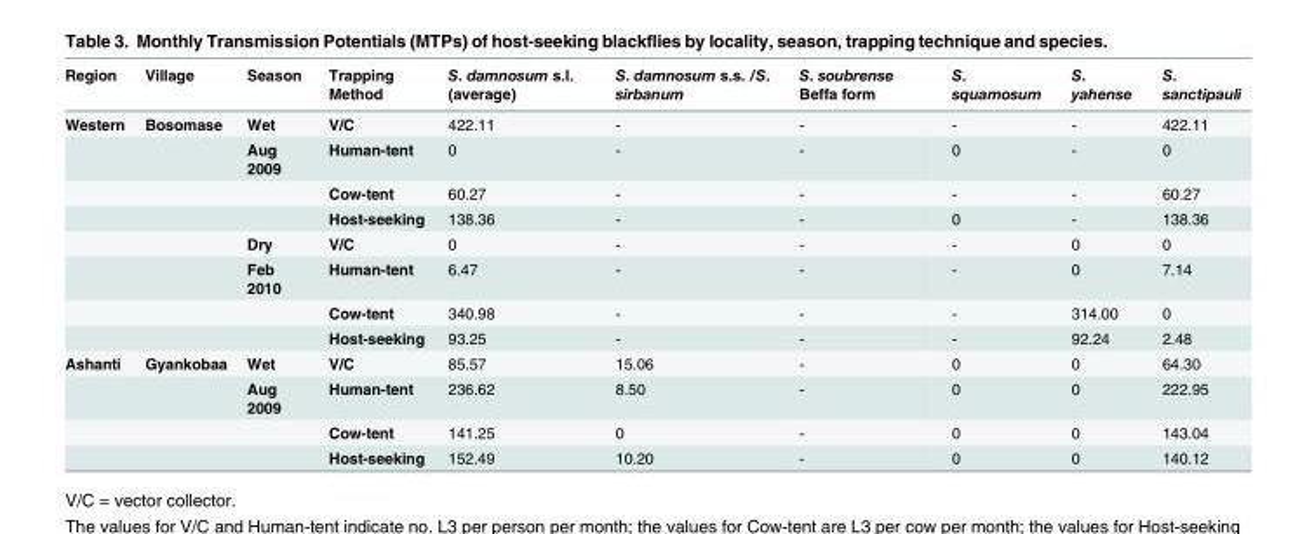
<table><thead><tr><td>Region</td><td>Village</td><td>Season</td><td>Trapping Method</td><td>S. damnosum s.l. (average)</td><td>S. damnosum s.s. /S. sirbanum</td><td>S. soubrense Beffa form</td><td>S. squamosum</td><td>S. yahense</td><td>S. sanctipauli</td></tr></thead><tbody><tr><td rowspan="8">Western</td><td>Bosomase</td><td>Wet</td><td>V/C</td><td>422.11</td><td>-</td><td>-</td><td>-</td><td>-</td><td>422.11</td></tr><tr><td></td><td>Aug 2009</td><td>Human-tent</td><td>0</td><td>-</td><td>-</td><td>0</td><td>-</td><td>0</td></tr><tr><td></td><td></td><td>Cow-tent</td><td>60.27</td><td>-</td><td>-</td><td>-</td><td>-</td><td>60.27</td></tr><tr><td></td><td></td><td>Host-seeking</td><td>138.36</td><td>-</td><td>-</td><td>0</td><td>-</td><td>138.36</td></tr><tr><td></td><td>Dry</td><td>V/C</td><td>0</td><td>-</td><td>-</td><td>-</td><td>0</td><td>0</td></tr><tr><td></td><td>Feb 2010</td><td>Human-tent</td><td>6.47</td><td>-</td><td>-</td><td>-</td><td>0</td><td>7.14</td></tr><tr><td></td><td></td><td>Cow-tent</td><td>340.98</td><td>-</td><td>-</td><td>-</td><td>314.00</td><td>0</td></tr><tr><td></td><td></td><td>Host-seeking</td><td>93.25</td><td>-</td><td>-</td><td>-</td><td>92.24</td><td>2.48</td></tr><tr><td rowspan="4">Ashanti</td><td>Gyankobaa</td><td>Wet</td><td>V/C</td><td>85.57</td><td>15.06</td><td>-</td><td>0</td><td>0</td><td>64.30</td></tr><tr><td></td><td>Aug 2009</td><td>Human-tent</td><td>236.62</td><td>8.50</td><td>-</td><td>0</td><td>0</td><td>222.95</td></tr><tr><td></td><td></td><td>Cow-tent</td><td>141.25</td><td>0</td><td>-</td><td>0</td><td>0</td><td>143.04</td></tr><tr><td></td><td></td><td>Host-seeking</td><td>152.49</td><td>10.20</td><td>-</td><td>0</td><td>0</td><td>140.12</td></tr></tbody></table>